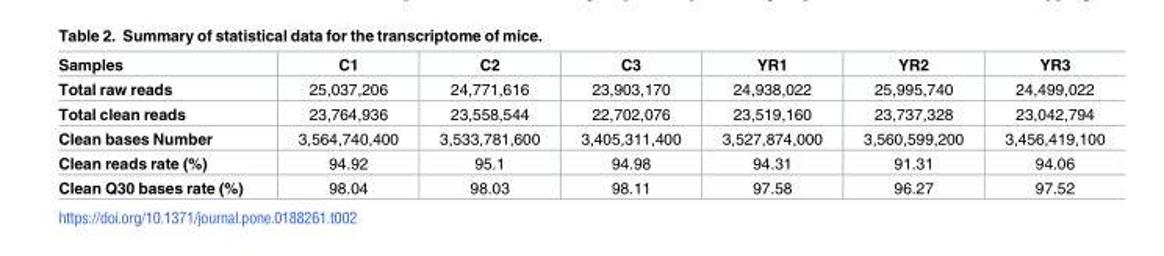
<table><thead><tr><td>Samples</td><td>C1</td><td>C2</td><td>C3</td><td>YR1</td><td>YR2</td><td>YR3</td></tr></thead><tbody><tr><td>Total raw reads</td><td>25,037,206</td><td>24,771,616</td><td>23,903,170</td><td>24,938,022</td><td>25,995,740</td><td>24,499,022</td></tr><tr><td>Total clean reads</td><td>23,764,936</td><td>23,558,544</td><td>22,702,076</td><td>23,519,160</td><td>23,737,328</td><td>23,042,794</td></tr><tr><td>Clean bases Number</td><td>3,564,740,400</td><td>3,533,781,600</td><td>3,405,311,400</td><td>3,527,874,000</td><td>3,560,599,200</td><td>3,456,419,100</td></tr><tr><td>Clean reads rate (%)</td><td>94.92</td><td>95.1</td><td>94.98</td><td>94.31</td><td>91.31</td><td>94.06</td></tr><tr><td>Clean Q30 bases rate (%)</td><td>98.04</td><td>98.03</td><td>98.11</td><td>97.58</td><td>96.27</td><td>97.52</td></tr></tbody></table>